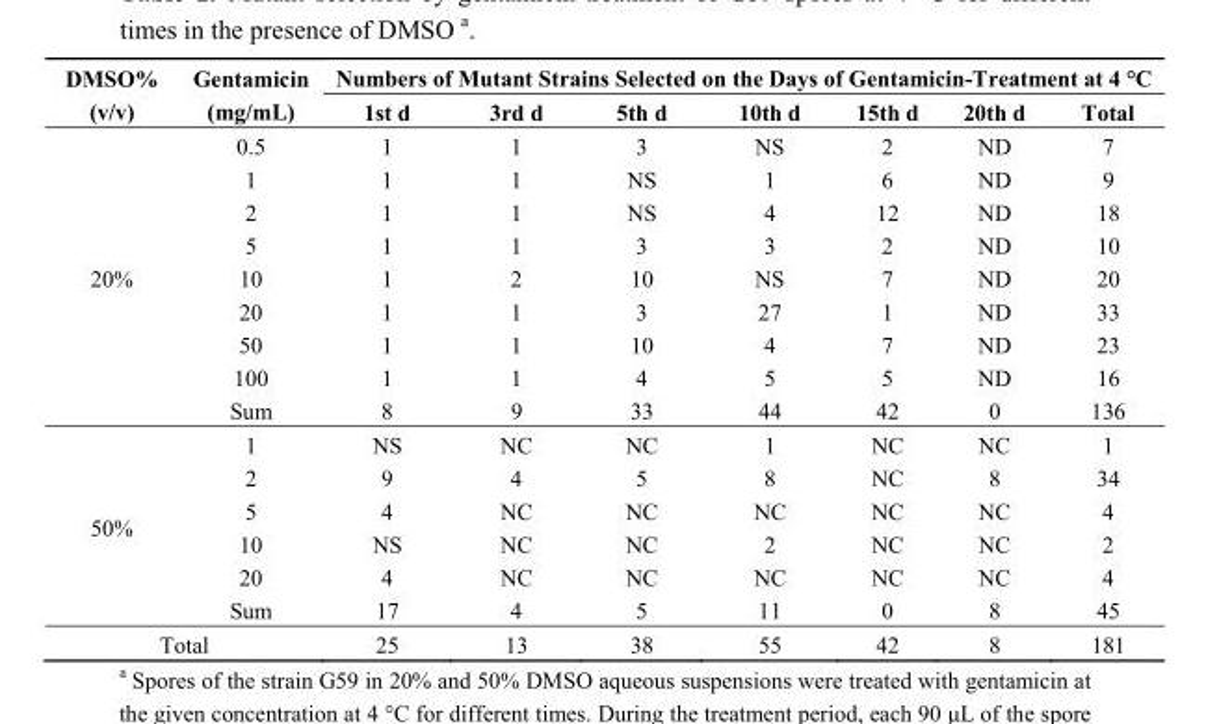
<table><thead><tr><td rowspan="2">DMSO% (v/v)</td><td rowspan="2">Gentamicin (mg/mL)</td><td colspan="7">Numbers of Mutant Strains Selected on the Days of Gentamicin-Treatment at 4 °C</td></tr><tr><td>1st d</td><td>3rd d</td><td>5th d</td><td>10th d</td><td>15th d</td><td>20th d</td><td>Total</td></tr></thead><tbody><tr><td rowspan="9">20%</td><td>0.5</td><td>1</td><td>1</td><td>3</td><td>NS</td><td>2</td><td>ND</td><td>7</td></tr><tr><td>1</td><td>1</td><td>1</td><td>NS</td><td>1</td><td>6</td><td>ND</td><td>9</td></tr><tr><td>2</td><td>1</td><td>1</td><td>NS</td><td>4</td><td>12</td><td>ND</td><td>18</td></tr><tr><td>5</td><td>1</td><td>1</td><td>3</td><td>3</td><td>2</td><td>ND</td><td>10</td></tr><tr><td>10</td><td>1</td><td>2</td><td>10</td><td>NS</td><td>7</td><td>ND</td><td>20</td></tr><tr><td>20</td><td>1</td><td>1</td><td>3</td><td>27</td><td>1</td><td>ND</td><td>33</td></tr><tr><td>50</td><td>1</td><td>1</td><td>10</td><td>4</td><td>7</td><td>ND</td><td>23</td></tr><tr><td>100</td><td>1</td><td>1</td><td>4</td><td>5</td><td>5</td><td>ND</td><td>16</td></tr><tr><td>Sum</td><td>8</td><td>9</td><td>33</td><td>44</td><td>42</td><td>0</td><td>136</td></tr><tr><td rowspan="6">50%</td><td>1</td><td>NS</td><td>NC</td><td>NC</td><td>1</td><td>NC</td><td>NC</td><td>1</td></tr><tr><td>2</td><td>9</td><td>4</td><td>5</td><td>8</td><td>NC</td><td>8</td><td>34</td></tr><tr><td>5</td><td>4</td><td>NC</td><td>NC</td><td>NC</td><td>NC</td><td>NC</td><td>4</td></tr><tr><td>10</td><td>NS</td><td>NC</td><td>NC</td><td>2</td><td>NC</td><td>NC</td><td>2</td></tr><tr><td>20</td><td>4</td><td>NC</td><td>NC</td><td>NC</td><td>NC</td><td>NC</td><td>4</td></tr><tr><td>Sum</td><td>17</td><td>4</td><td>5</td><td>11</td><td>0</td><td>8</td><td>45</td></tr><tr><td colspan="2">Total</td><td>25</td><td>13</td><td>38</td><td>55</td><td>42</td><td>8</td><td>181</td></tr></tbody></table>